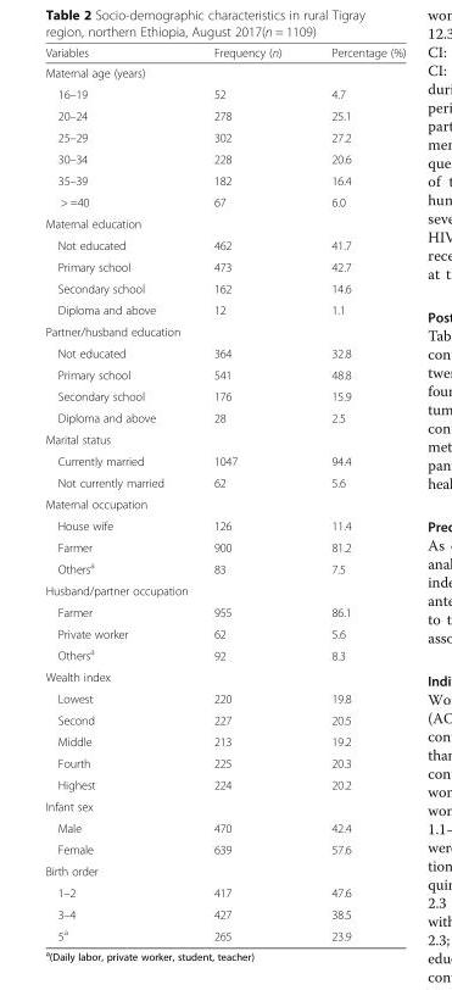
<table><thead><tr><td>Variables</td><td>Frequency (n)</td><td>Percentage (%)</td></tr></thead><tbody><tr><td colspan="3">Maternal age (years)</td></tr><tr><td>16–19</td><td>52</td><td>4.7</td></tr><tr><td>20–24</td><td>278</td><td>25.1</td></tr><tr><td>25–29</td><td>302</td><td>27.2</td></tr><tr><td>30–34</td><td>228</td><td>20.6</td></tr><tr><td>35–39</td><td>182</td><td>16.4</td></tr><tr><td>&gt; =40</td><td>67</td><td>6.0</td></tr><tr><td colspan="3">Maternal education</td></tr><tr><td>Not educated</td><td>462</td><td>41.7</td></tr><tr><td>Primary school</td><td>473</td><td>42.7</td></tr><tr><td>Secondary school</td><td>162</td><td>14.6</td></tr><tr><td>Diploma and above</td><td>12</td><td>1.1</td></tr><tr><td colspan="3">Partner/husband education</td></tr><tr><td>Not educated</td><td>364</td><td>32.8</td></tr><tr><td>Primary school</td><td>541</td><td>48.8</td></tr><tr><td>Secondary school</td><td>176</td><td>15.9</td></tr><tr><td>Diploma and above</td><td>28</td><td>2.5</td></tr><tr><td colspan="3">Marital status</td></tr><tr><td>Currently married</td><td>1047</td><td>94.4</td></tr><tr><td>Not currently married</td><td>62</td><td>5.6</td></tr><tr><td colspan="3">Maternal occupation</td></tr><tr><td>House wife</td><td>126</td><td>11.4</td></tr><tr><td>Farmer</td><td>900</td><td>81.2</td></tr><tr><td>Others<sup>a</sup></td><td>83</td><td>7.5</td></tr><tr><td colspan="3">Husband/partner occupation</td></tr><tr><td>Farmer</td><td>955</td><td>86.1</td></tr><tr><td>Private worker</td><td>62</td><td>5.6</td></tr><tr><td>Others<sup>a</sup></td><td>92</td><td>8.3</td></tr><tr><td colspan="3">Wealth index</td></tr><tr><td>Lowest</td><td>220</td><td>19.8</td></tr><tr><td>Second</td><td>227</td><td>20.5</td></tr><tr><td>Middle</td><td>213</td><td>19.2</td></tr><tr><td>Fourth</td><td>225</td><td>20.3</td></tr><tr><td>Highest</td><td>224</td><td>20.2</td></tr><tr><td colspan="3">Infant sex</td></tr><tr><td>Male</td><td>470</td><td>42.4</td></tr><tr><td>Female</td><td>639</td><td>57.6</td></tr><tr><td colspan="3">Birth order</td></tr><tr><td>1–2</td><td>417</td><td>47.6</td></tr><tr><td>3–4</td><td>427</td><td>38.5</td></tr><tr><td>5<sup>a</sup></td><td>265</td><td>23.9</td></tr></tbody></table>